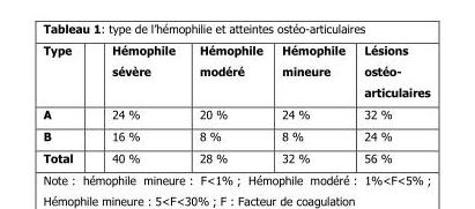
<table><thead><tr><td>Type</td><td>Hémophile sévère</td><td>Hémophile modéré</td><td>Hémophile mineure</td><td>Lésions ostéo- articulaires</td></tr></thead><tbody><tr><td>A</td><td>24 %</td><td>20 %</td><td>24 %</td><td>32 %</td></tr><tr><td>B</td><td>16 %</td><td>8 %</td><td>8 %</td><td>24 %</td></tr><tr><td>Total</td><td>40 %</td><td>28 %</td><td>32 %</td><td>56 %</td></tr></tbody></table>